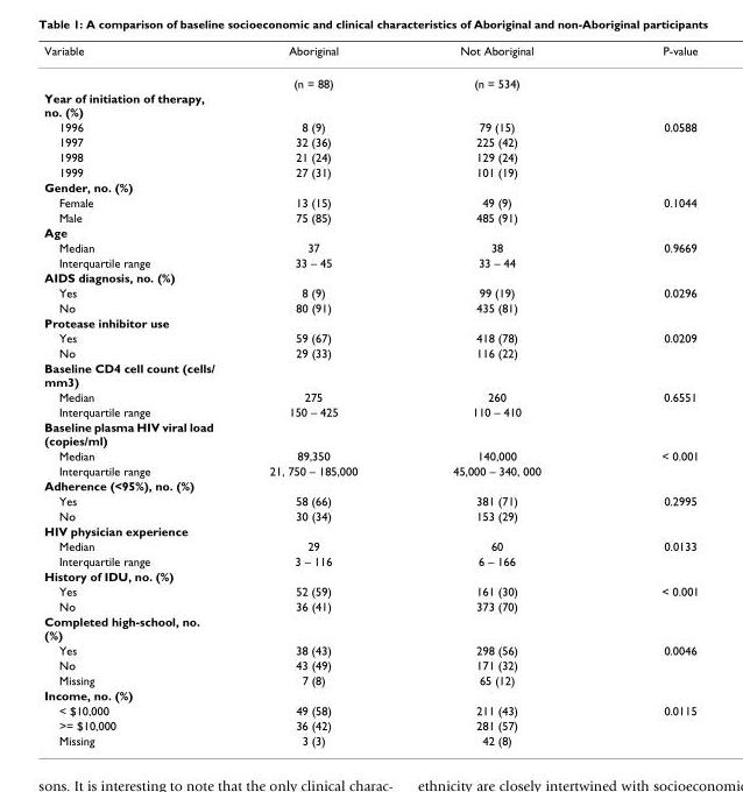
<table><thead><tr><td>Variable</td><td>Aboriginal</td><td>Not Aboriginal</td><td>P-value</td></tr></thead><tbody><tr><td></td><td>(n = 88)</td><td>(n = 534)</td><td></td></tr><tr><td colspan="4">Year of initiation of therapy, no. (%)</td></tr><tr><td>1996</td><td>8 (9)</td><td>79 (15)</td><td>0.0588</td></tr><tr><td>1997</td><td>32 (36)</td><td>225 (42)</td><td></td></tr><tr><td>1998</td><td>21 (24)</td><td>129 (24)</td><td></td></tr><tr><td>1999</td><td>27 (31)</td><td>101 (19)</td><td></td></tr><tr><td colspan="4">Gender, no. (%)</td></tr><tr><td>Female</td><td>13 (15)</td><td>49 (9)</td><td>0.1044</td></tr><tr><td>Male</td><td>75 (85)</td><td>485 (91)</td><td></td></tr><tr><td colspan="4">Age</td></tr><tr><td>Median</td><td>37</td><td>38</td><td>0.9669</td></tr><tr><td>Interquartile range</td><td>33 – 45</td><td>33 – 44</td><td></td></tr><tr><td colspan="4">AIDS diagnosis, no. (%)</td></tr><tr><td>Yes</td><td>8 (9)</td><td>99 (19)</td><td>0.0296</td></tr><tr><td>No</td><td>80 (91)</td><td>435 (81)</td><td></td></tr><tr><td colspan="4">Protease inhibitor use</td></tr><tr><td>Yes</td><td>59 (67)</td><td>418 (78)</td><td>0.0209</td></tr><tr><td>No</td><td>29 (33)</td><td>116 (22)</td><td></td></tr><tr><td colspan="4">Baseline CD4 cell count (cells/ mm3)</td></tr><tr><td>Median</td><td>275</td><td>260</td><td>0.6551</td></tr><tr><td>Interquartile range</td><td>150 – 425</td><td>110 – 410</td><td></td></tr><tr><td colspan="4">Baseline plasma HIV viral load (copies/ml)</td></tr><tr><td>Median</td><td>89,350</td><td>140,000</td><td>&lt; 0.001</td></tr><tr><td>Interquartile range</td><td>21, 750 – 185,000</td><td>45,000 – 340, 000</td><td></td></tr><tr><td colspan="4">Adherence (&lt;95%), no. (%)</td></tr><tr><td>Yes</td><td>58 (66)</td><td>381 (71)</td><td>0.2995</td></tr><tr><td>No</td><td>30 (34)</td><td>153 (29)</td><td></td></tr><tr><td colspan="4">HIV physician experience</td></tr><tr><td>Median</td><td>29</td><td>60</td><td>0.0133</td></tr><tr><td>Interquartile range</td><td>3 – 116</td><td>6 – 166</td><td></td></tr><tr><td colspan="4">History of IDU, no. (%)</td></tr><tr><td>Yes</td><td>52 (59)</td><td>161 (30)</td><td>&lt; 0.001</td></tr><tr><td>No</td><td>36 (41)</td><td>373 (70)</td><td></td></tr><tr><td colspan="4">Completed high-school, no. (%)</td></tr><tr><td>Yes</td><td>38 (43)</td><td>298 (56)</td><td>0.0046</td></tr><tr><td>No</td><td>43 (49)</td><td>171 (32)</td><td></td></tr><tr><td>Missing</td><td>7 (8)</td><td>65 (12)</td><td></td></tr><tr><td colspan="4">Income, no. (%)</td></tr><tr><td>&lt; $10,000</td><td>49 (58)</td><td>211 (43)</td><td>0.0115</td></tr><tr><td>&gt;= $10,000</td><td>36 (42)</td><td>281 (57)</td><td></td></tr><tr><td>Missing</td><td>3 (3)</td><td>42 (8)</td><td></td></tr></tbody></table>